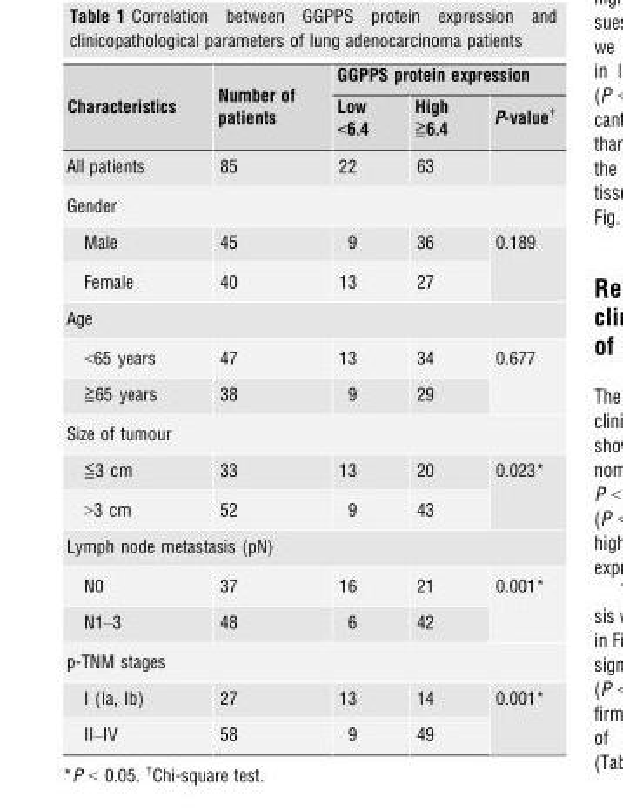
<table><thead><tr><td rowspan="2">Characteristics</td><td rowspan="2">Number of patients</td><td colspan="3">GGPPS protein expression</td></tr><tr><td>Low &lt;6.4</td><td>High ≧6.4</td><td>P-value†</td></tr></thead><tbody><tr><td>All patients</td><td>85</td><td>22</td><td>63</td><td></td></tr><tr><td colspan="5">Gender</td></tr><tr><td>Male</td><td>45</td><td>9</td><td>36</td><td rowspan="2">0.189</td></tr><tr><td>Female</td><td>40</td><td>13</td><td>27</td></tr><tr><td colspan="5">Age</td></tr><tr><td>&lt;65 years</td><td>47</td><td>13</td><td>34</td><td rowspan="2">0.677</td></tr><tr><td>≧65 years</td><td>38</td><td>9</td><td>29</td></tr><tr><td colspan="5">Size of tumour</td></tr><tr><td>≦3 cm</td><td>33</td><td>13</td><td>20</td><td rowspan="2">0.023*</td></tr><tr><td>&gt;3 cm</td><td>52</td><td>9</td><td>43</td></tr><tr><td colspan="5">Lymph node metastasis (pN)</td></tr><tr><td>N0</td><td>37</td><td>16</td><td>21</td><td rowspan="2">0.001*</td></tr><tr><td>N1–3</td><td>48</td><td>6</td><td>42</td></tr><tr><td colspan="5">p-TNM stages</td></tr><tr><td>I (Ia, Ib)</td><td>27</td><td>13</td><td>14</td><td rowspan="2">0.001*</td></tr><tr><td>II–IV</td><td>58</td><td>9</td><td>49</td></tr></tbody></table>